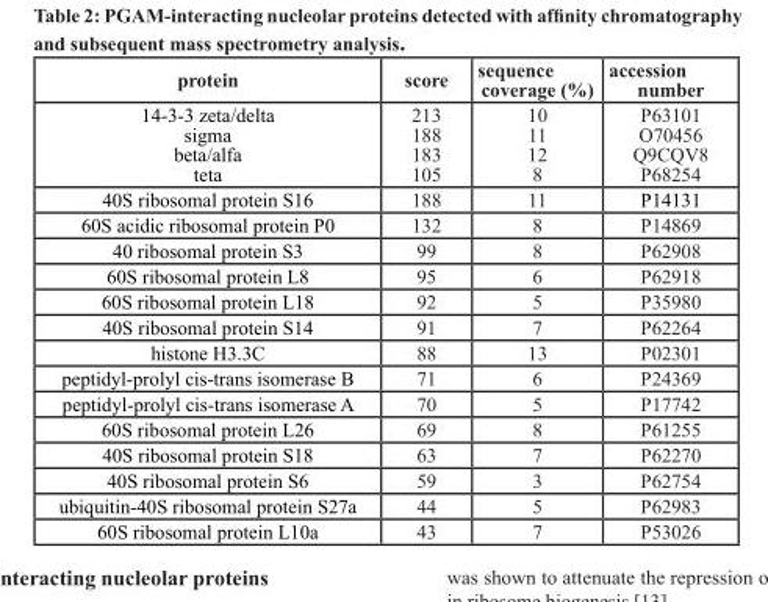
<table><thead><tr><td>protein</td><td>score</td><td>sequence coverage (%)</td><td>accession number</td></tr></thead><tbody><tr><td>14-3-3 zeta/delta sigma beta/alfa teta</td><td>213 188 183 105</td><td>10 11 12 8</td><td>P63101 O70456 Q9CQV8 P68254</td></tr><tr><td>40S ribosomal protein S16</td><td>188</td><td>11</td><td>P14131</td></tr><tr><td>60S acidic ribosomal protein P0</td><td>132</td><td>8</td><td>P14869</td></tr><tr><td>40 ribosomal protein S3</td><td>99</td><td>8</td><td>P62908</td></tr><tr><td>60S ribosomal protein L8</td><td>95</td><td>6</td><td>P62918</td></tr><tr><td>60S ribosomal protein L18</td><td>92</td><td>5</td><td>P35980</td></tr><tr><td>40S ribosomal protein S14</td><td>91</td><td>7</td><td>P62264</td></tr><tr><td>histone H3.3C</td><td>88</td><td>13</td><td>P02301</td></tr><tr><td>peptidyl-prolyl cis-trans isomerase B</td><td>71</td><td>6</td><td>P24369</td></tr><tr><td>peptidyl-prolyl cis-trans isomerase A</td><td>70</td><td>5</td><td>P17742</td></tr><tr><td>60S ribosomal protein L26</td><td>69</td><td>8</td><td>P61255</td></tr><tr><td>40S ribosomal protein S18</td><td>63</td><td>7</td><td>P62270</td></tr><tr><td>40S ribosomal protein S6</td><td>59</td><td>3</td><td>P62754</td></tr><tr><td>ubiquitin-40S ribosomal protein S27a</td><td>44</td><td>5</td><td>P62983</td></tr><tr><td>60S ribosomal protein L10a</td><td>43</td><td>7</td><td>P53026</td></tr></tbody></table>